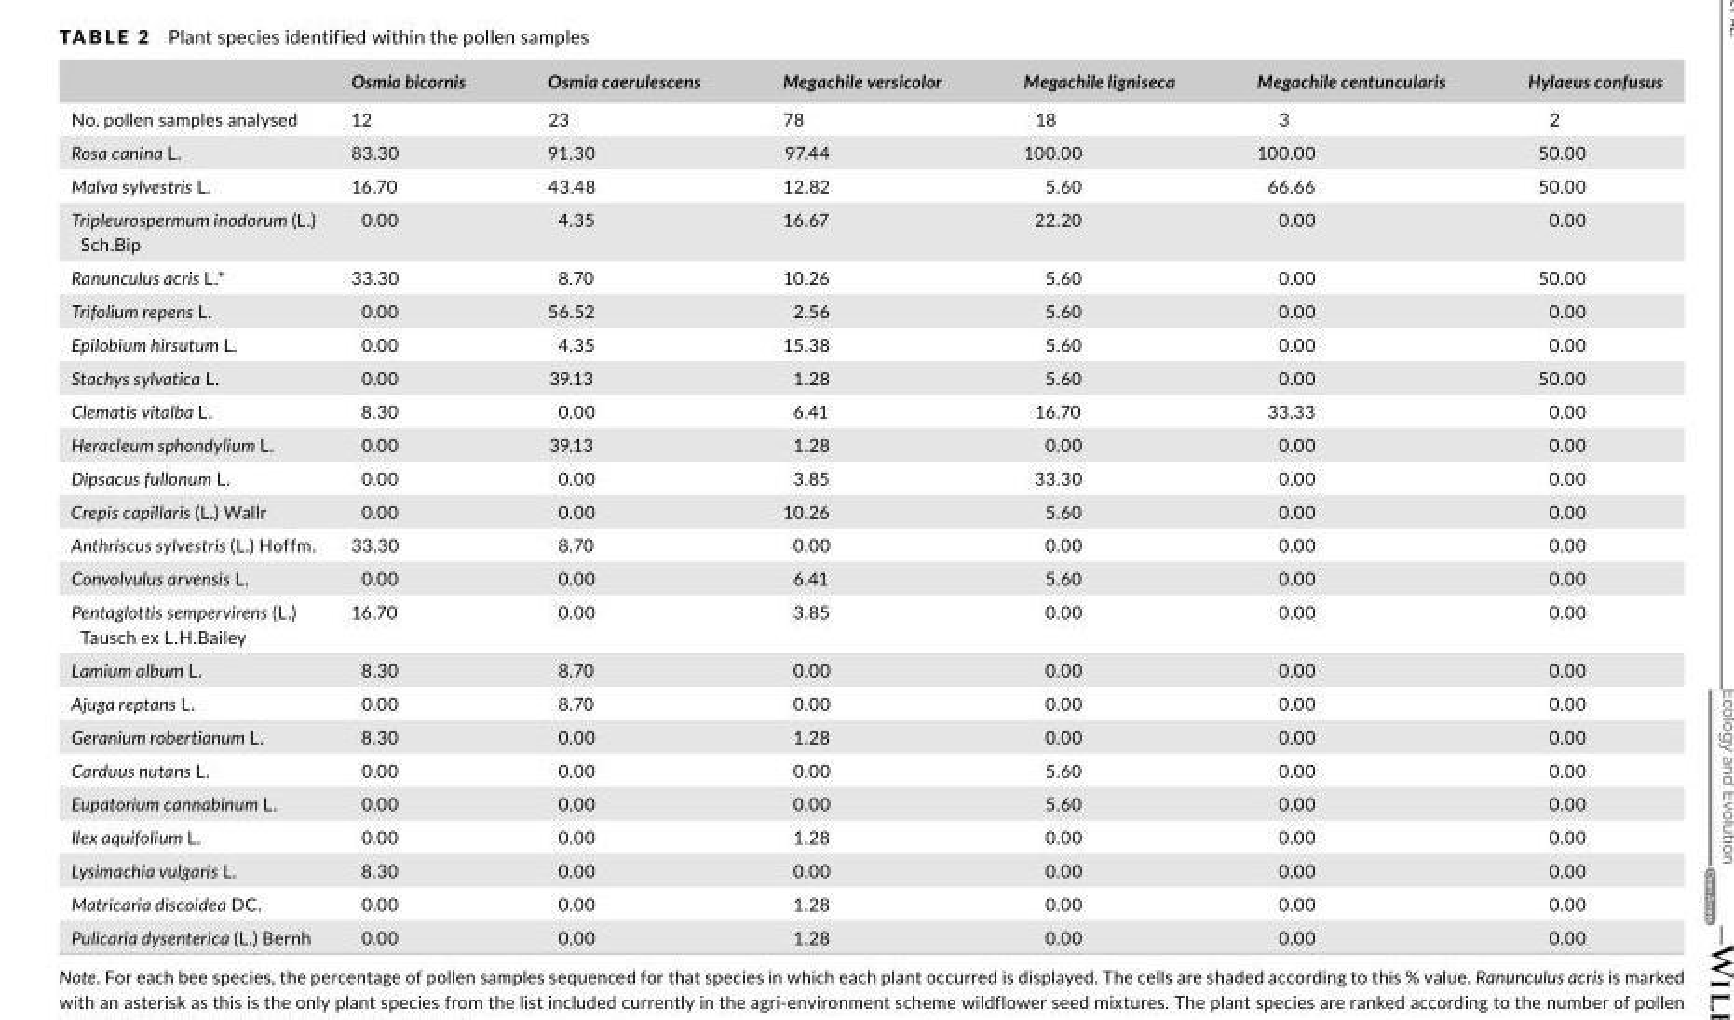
<table><thead><tr><td></td><td>Osmia bicornis</td><td>Osmia caerulescens</td><td>Megachile versicolor</td><td>Megachile ligniseca</td><td>Megachile centuncularis</td><td>Hylaeus confusus</td></tr></thead><tbody><tr><td>No. pollen samples analysed</td><td>12</td><td>23</td><td>78</td><td>18</td><td>3</td><td>2</td></tr><tr><td>Rosa canina L.</td><td>83.30</td><td>91.30</td><td>97.44</td><td>100.00</td><td>100.00</td><td>50.00</td></tr><tr><td>Malva sylvestris L.</td><td>16.70</td><td>43.48</td><td>12.82</td><td>5.60</td><td>66.66</td><td>50.00</td></tr><tr><td>Tripleurospermum inodorum (L.) Sch.Bip</td><td>0.00</td><td>4.35</td><td>16.67</td><td>22.20</td><td>0.00</td><td>0.00</td></tr><tr><td>Ranunculus acris L.*</td><td>33.30</td><td>8.70</td><td>10.26</td><td>5.60</td><td>0.00</td><td>50.00</td></tr><tr><td>Trifolium repens L.</td><td>0.00</td><td>56.52</td><td>2.56</td><td>5.60</td><td>0.00</td><td>0.00</td></tr><tr><td>Epilobium hirsutum L.</td><td>0.00</td><td>4.35</td><td>15.38</td><td>5.60</td><td>0.00</td><td>0.00</td></tr><tr><td>Stachys sylvatica L.</td><td>0.00</td><td>39.13</td><td>1.28</td><td>5.60</td><td>0.00</td><td>50.00</td></tr><tr><td>Clematis vitalba L.</td><td>8.30</td><td>0.00</td><td>6.41</td><td>16.70</td><td>33.33</td><td>0.00</td></tr><tr><td>Heracleum sphondylium L.</td><td>0.00</td><td>39.13</td><td>1.28</td><td>0.00</td><td>0.00</td><td>0.00</td></tr><tr><td>Dipsacus fullonum L.</td><td>0.00</td><td>0.00</td><td>3.85</td><td>33.30</td><td>0.00</td><td>0.00</td></tr><tr><td>Crepis capillaris (L.) Wallr</td><td>0.00</td><td>0.00</td><td>10.26</td><td>5.60</td><td>0.00</td><td>0.00</td></tr><tr><td>Anthriscus sylvestris (L.) Hoffm.</td><td>33.30</td><td>8.70</td><td>0.00</td><td>0.00</td><td>0.00</td><td>0.00</td></tr><tr><td>Convolvulus arvensis L.</td><td>0.00</td><td>0.00</td><td>6.41</td><td>5.60</td><td>0.00</td><td>0.00</td></tr><tr><td>Pentaglottis sempervirens (L.) Tausch ex L.H.Bailey</td><td>16.70</td><td>0.00</td><td>3.85</td><td>0.00</td><td>0.00</td><td>0.00</td></tr><tr><td>Lamium album L.</td><td>8.30</td><td>8.70</td><td>0.00</td><td>0.00</td><td>0.00</td><td>0.00</td></tr><tr><td>Ajuga reptans L.</td><td>0.00</td><td>8.70</td><td>0.00</td><td>0.00</td><td>0.00</td><td>0.00</td></tr><tr><td>Geranium robertianum L.</td><td>8.30</td><td>0.00</td><td>1.28</td><td>0.00</td><td>0.00</td><td>0.00</td></tr><tr><td>Carduus nutans L.</td><td>0.00</td><td>0.00</td><td>0.00</td><td>5.60</td><td>0.00</td><td>0.00</td></tr><tr><td>Eupatorium cannabinum L.</td><td>0.00</td><td>0.00</td><td>0.00</td><td>5.60</td><td>0.00</td><td>0.00</td></tr><tr><td>Ilex aquifolium L.</td><td>0.00</td><td>0.00</td><td>1.28</td><td>0.00</td><td>0.00</td><td>0.00</td></tr><tr><td>Lysimachia vulgaris L.</td><td>8.30</td><td>0.00</td><td>0.00</td><td>0.00</td><td>0.00</td><td>0.00</td></tr><tr><td>Matricaria discoidea DC.</td><td>0.00</td><td>0.00</td><td>1.28</td><td>0.00</td><td>0.00</td><td>0.00</td></tr><tr><td>Pulicaria dysenterica (L.) Bernh</td><td>0.00</td><td>0.00</td><td>1.28</td><td>0.00</td><td>0.00</td><td>0.00</td></tr></tbody></table>